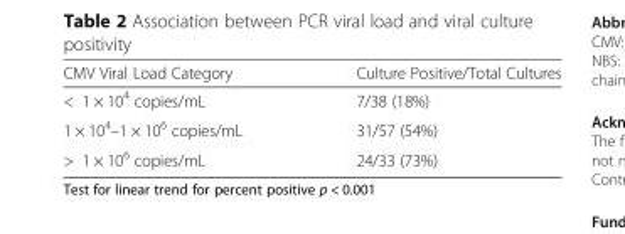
<table><thead><tr><td>CMV Viral Load Category</td><td>Culture Positive/Total Cultures</td></tr></thead><tbody><tr><td>&lt; 1 × 10<sup>4</sup> copies/mL</td><td>7/38 (18%)</td></tr><tr><td>1 × 10<sup>4</sup>–1 × 10<sup>6</sup> copies/mL</td><td>31/57 (54%)</td></tr><tr><td>&gt; 1 × 10<sup>6</sup> copies/mL</td><td>24/33 (73%)</td></tr></tbody></table>